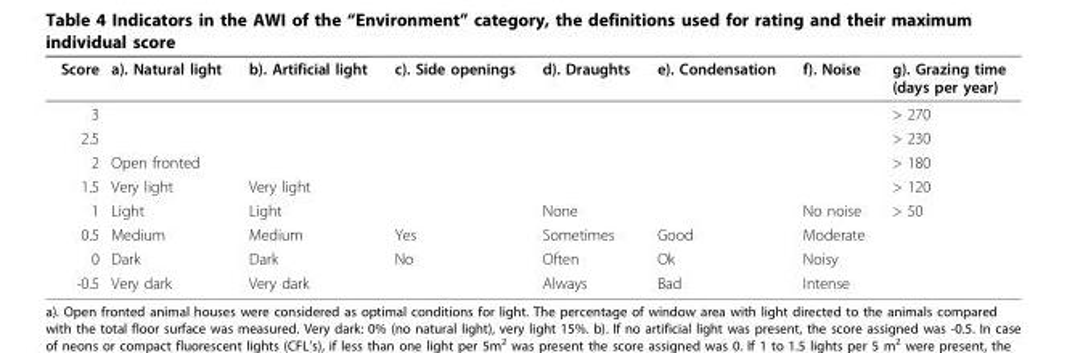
<table><thead><tr><td>Score</td><td>a). Natural light</td><td>b). Artificial light</td><td>c). Side openings</td><td>d). Draughts</td><td>e). Condensation</td><td>f). Noise</td><td>g). Grazing time (days per year)</td></tr></thead><tbody><tr><td>3</td><td></td><td></td><td></td><td></td><td></td><td></td><td>&gt; 270</td></tr><tr><td>2.5</td><td></td><td></td><td></td><td></td><td></td><td></td><td>&gt; 230</td></tr><tr><td>2</td><td>Open fronted</td><td></td><td></td><td></td><td></td><td></td><td>&gt; 180</td></tr><tr><td>1.5</td><td>Very light</td><td>Very light</td><td></td><td></td><td></td><td></td><td>&gt; 120</td></tr><tr><td>1</td><td>Light</td><td>Light</td><td></td><td>None</td><td></td><td>No noise</td><td>&gt; 50</td></tr><tr><td>0.5</td><td>Medium</td><td>Medium</td><td>Yes</td><td>Sometimes</td><td>Good</td><td>Moderate</td><td></td></tr><tr><td>0</td><td>Dark</td><td>Dark</td><td>No</td><td>Often</td><td>Ok</td><td>Noisy</td><td></td></tr><tr><td>-0.5</td><td>Very dark</td><td>Very dark</td><td></td><td>Always</td><td>Bad</td><td>Intense</td><td></td></tr></tbody></table>